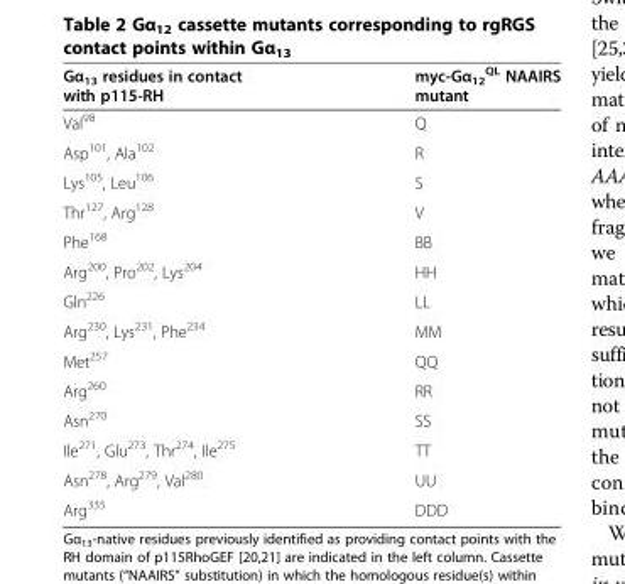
<table><thead><tr><td>Gα<sub>13</sub> residues in contact with p115-RH</td><td>myc-Gα<sub>12</sub> <sup>QL</sup> NAAIRS mutant</td></tr></thead><tbody><tr><td>Val<sup>98</sup></td><td>Q</td></tr><tr><td>Asp<sup>101</sup>, Ala<sup>102</sup></td><td>R</td></tr><tr><td>Lys<sup>105</sup>, Leu<sup>106</sup></td><td>S</td></tr><tr><td>Thr<sup>127</sup>, Arg<sup>128</sup></td><td>V</td></tr><tr><td>Phe<sup>168</sup></td><td>BB</td></tr><tr><td>Arg<sup>200</sup>, Pro<sup>202</sup>, Lys<sup>204</sup></td><td>HH</td></tr><tr><td>Gln<sup>226</sup></td><td>LL</td></tr><tr><td>Arg<sup>230</sup>, Lys<sup>231</sup>, Phe<sup>234</sup></td><td>MM</td></tr><tr><td>Met<sup>257</sup></td><td>QQ</td></tr><tr><td>Arg<sup>260</sup></td><td>RR</td></tr><tr><td>Asn<sup>270</sup></td><td>SS</td></tr><tr><td>Ile<sup>271</sup>, Glu<sup>273</sup>, Thr<sup>274</sup>, Ile<sup>275</sup></td><td>TT</td></tr><tr><td>Asn<sup>278</sup>, Arg<sup>279</sup>, Val<sup>280</sup></td><td>UU</td></tr><tr><td>Arg<sup>335</sup></td><td>DDD</td></tr></tbody></table>